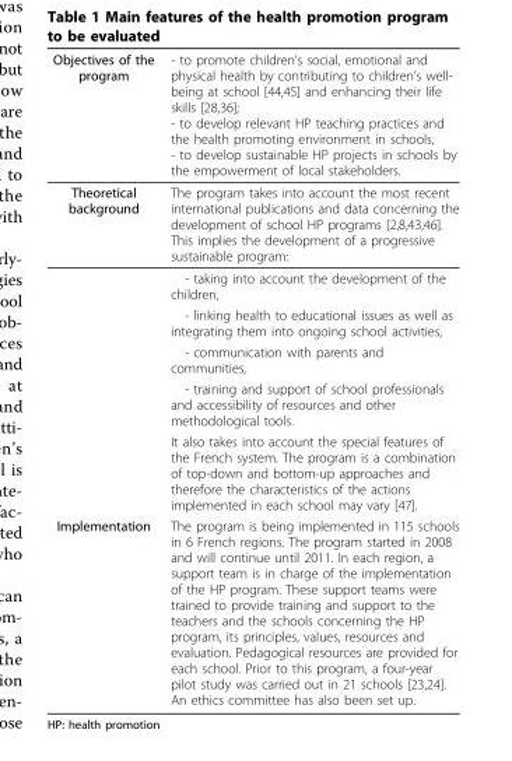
<table><thead><tr><td>Objectives of the program</td><td>- to promote children’s social, emotional and physical health by contributing to children’s well- being at school [44,45] and enhancing their life skills [28,36]; - to develop relevant HP teaching practices and the health promoting environment in schools, - to develop sustainable HP projects in schools by the empowerment of local stakeholders.</td></tr></thead><tbody><tr><td rowspan="6">Theoretical background</td><td>The program takes into account the most recent international publications and data concerning the development of school HP programs [2,8,43,46]. This implies the development of a progressive sustainable program:</td></tr><tr><td>- taking into account the development of the children,</td></tr><tr><td>- linking health to educational issues as well as integrating them into ongoing school activities,</td></tr><tr><td>- communication with parents and communities,</td></tr><tr><td>- training and support of school professionals and accessibility of resources and other methodological tools.</td></tr><tr><td>It also takes into account the special features of the French system. The program is a combination of top-down and bottom-up approaches and therefore the characteristics of the actions implemented in each school may vary [47].</td></tr><tr><td>Implementation</td><td>The program is being implemented in 115 schools in 6 French regions. The program started in 2008 and will continue until 2011. In each region, a support team is in charge of the implementation of the HP program. These support teams were trained to provide training and support to the teachers and the schools concerning the HP program, its principles, values, resources and evaluation. Pedagogical resources are provided for each school. Prior to this program, a four-year pilot study was carried out in 21 schools [23,24]. An ethics committee has also been set up.</td></tr></tbody></table>